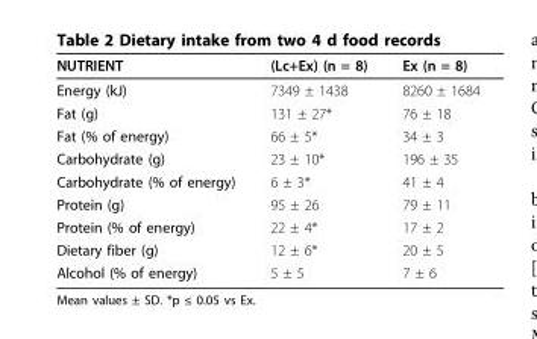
<table><thead><tr><td>NUTRIENT</td><td>(Lc+Ex) (n = 8)</td><td>Ex (n = 8)</td></tr></thead><tbody><tr><td>Energy (kJ)</td><td>7349 ± 1438</td><td>8260 ± 1684</td></tr><tr><td>Fat (g)</td><td>131 ± 27*</td><td>76 ± 18</td></tr><tr><td>Fat (% of energy)</td><td>66 ± 5*</td><td>34 ± 3</td></tr><tr><td>Carbohydrate (g)</td><td>23 ± 10*</td><td>196 ± 35</td></tr><tr><td>Carbohydrate (% of energy)</td><td>6 ± 3*</td><td>41 ± 4</td></tr><tr><td>Protein (g)</td><td>95 ± 26</td><td>79 ± 11</td></tr><tr><td>Protein (% of energy)</td><td>22 ± 4*</td><td>17 ± 2</td></tr><tr><td>Dietary fiber (g)</td><td>12 ± 6*</td><td>20 ± 5</td></tr><tr><td>Alcohol (% of energy)</td><td>5 ± 5</td><td>7 ± 6</td></tr></tbody></table>